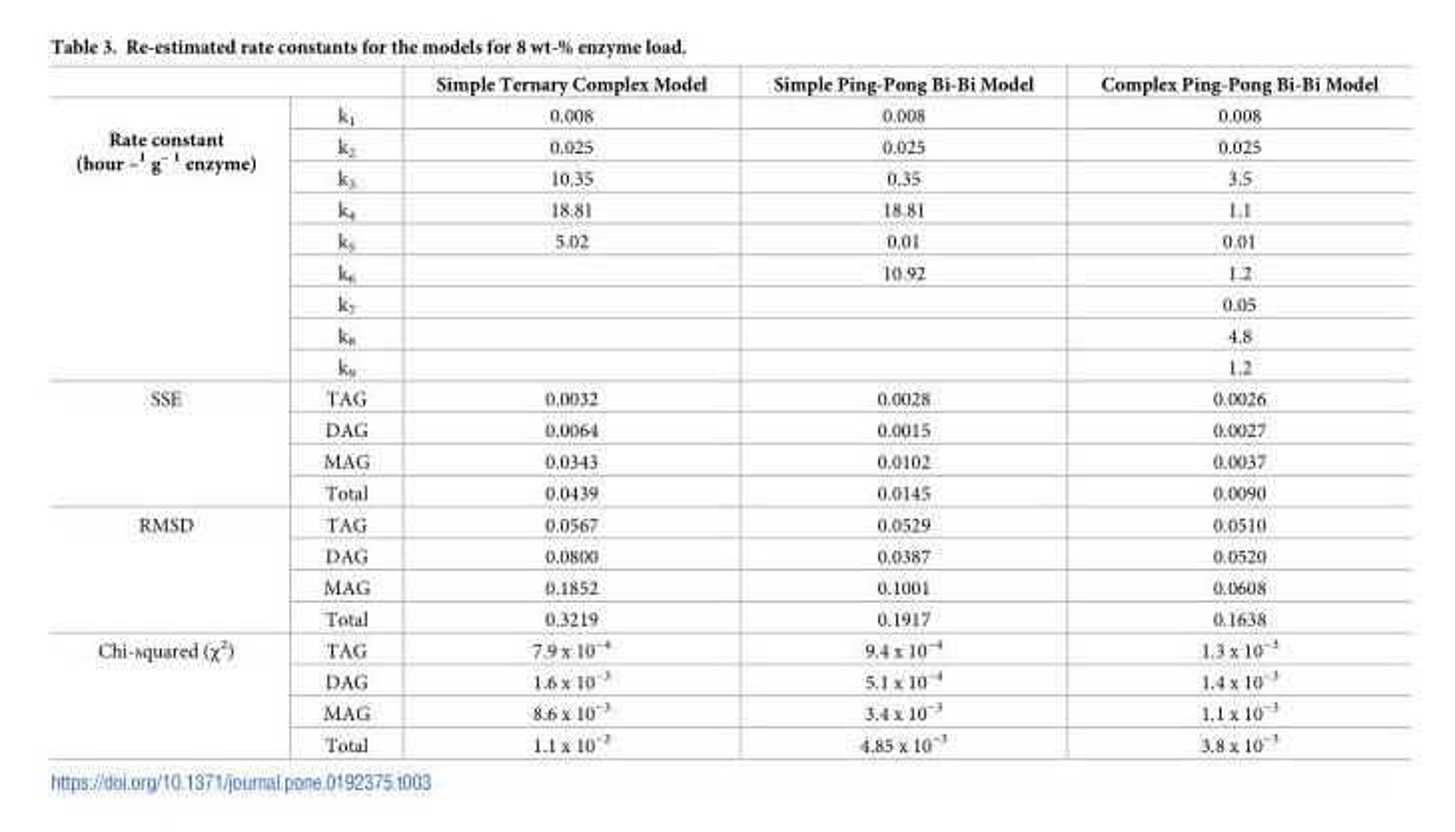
<table><thead><tr><td></td><td></td><td>Simple Ternary Complex Model</td><td>Simple Ping-Pong Bi-Bi Model</td><td>Complex Ping-Pong Bi-Bi Model</td></tr></thead><tbody><tr><td rowspan="9">Rate constant (hour –<sup>1</sup> g<sup>– 1</sup> enzyme)</td><td>k<sub>1</sub></td><td>0.008</td><td>0.008</td><td>0.008</td></tr><tr><td>k<sub>2</sub></td><td>0.025</td><td>0.025</td><td>0.025</td></tr><tr><td>k<sub>3</sub></td><td>10.35</td><td>0.35</td><td>3.5</td></tr><tr><td>k<sub>4</sub></td><td>18.81</td><td>18.81</td><td>1.1</td></tr><tr><td>k<sub>5</sub></td><td>5.02</td><td>0.01</td><td>0.01</td></tr><tr><td>k<sub>6</sub></td><td></td><td>10.92</td><td>1.2</td></tr><tr><td>k<sub>7</sub></td><td></td><td></td><td>0.05</td></tr><tr><td>k<sub>8</sub></td><td></td><td></td><td>4.8</td></tr><tr><td>k<sub>9</sub></td><td></td><td></td><td>1.2</td></tr><tr><td rowspan="4">SSE</td><td>TAG</td><td>0.0032</td><td>0.0028</td><td>0.0026</td></tr><tr><td>DAG</td><td>0.0064</td><td>0.0015</td><td>0.0027</td></tr><tr><td>MAG</td><td>0.0343</td><td>0.0102</td><td>0.0037</td></tr><tr><td>Total</td><td>0.0439</td><td>0.0145</td><td>0.0090</td></tr><tr><td rowspan="4">RMSD</td><td>TAG</td><td>0.0567</td><td>0.0529</td><td>0.0510</td></tr><tr><td>DAG</td><td>0.0800</td><td>0.0387</td><td>0.0520</td></tr><tr><td>MAG</td><td>0.1852</td><td>0.1001</td><td>0.0608</td></tr><tr><td>Total</td><td>0.3219</td><td>0.1917</td><td>0.1638</td></tr><tr><td rowspan="4">Chi-squared (χ<sup>2</sup>)</td><td>TAG</td><td>7.9 x 10<sup>−4</sup></td><td>9.4 x 10<sup>−4</sup></td><td>1.3 x 10<sup>−3</sup></td></tr><tr><td>DAG</td><td>1.6 x 10<sup>−3</sup></td><td>5.1 x 10<sup>−4</sup></td><td>1.4 x 10<sup>−3</sup></td></tr><tr><td>MAG</td><td>8.6 x 10<sup>−3</sup></td><td>3.4 x 10<sup>−3</sup></td><td>1.1 x 10<sup>−3</sup></td></tr><tr><td>Total</td><td>1.1 x 10<sup>−2</sup></td><td>4.85 x 10<sup>−3</sup></td><td>3.8 x 10<sup>−3</sup></td></tr></tbody></table>